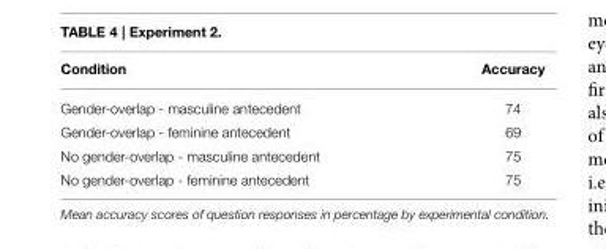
<table><thead><tr><td>Condition</td><td>Accuracy</td></tr></thead><tbody><tr><td>Gender-overlap - masculine antecedent</td><td>74</td></tr><tr><td>Gender-overlap - feminine antecedent</td><td>69</td></tr><tr><td>No gender-overlap - masculine antecedent</td><td>75</td></tr><tr><td>No gender-overlap - feminine antecedent</td><td>75</td></tr></tbody></table>